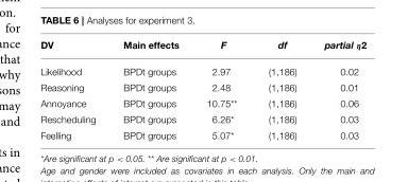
<table><thead><tr><td>DV</td><td>Main effects</td><td>F</td><td>df</td><td>partial η2</td></tr></thead><tbody><tr><td>Likelihood</td><td>BPDt groups</td><td>2.97</td><td>(1,186)</td><td>0.02</td></tr><tr><td>Reasoning</td><td>BPDt groups</td><td>2.48</td><td>(1,186)</td><td>0.01</td></tr><tr><td>Annoyance</td><td>BPDt groups</td><td>10.75**</td><td>(1,186)</td><td>0.06</td></tr><tr><td>Rescheduling</td><td>BPDt groups</td><td>6.26*</td><td>(1,186)</td><td>0.03</td></tr><tr><td>Feelling</td><td>BPDt groups</td><td>5.07*</td><td>(1,186)</td><td>0.03</td></tr></tbody></table>